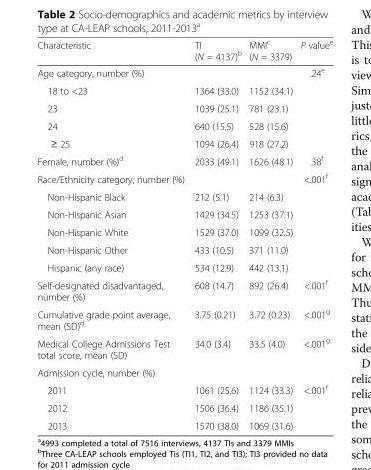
<table><thead><tr><td>Characteristic</td><td>TI (N = 4137)<sup>b</sup></td><td>MMI<sup>c</sup> (N = 3379)</td><td>P value<sup>e</sup></td></tr></thead><tbody><tr><td>Age category, number (%)</td><td></td><td></td><td>.24<sup>e</sup></td></tr><tr><td>18 to &lt;23</td><td>1364 (33.0)</td><td>1152 (34.1)</td><td></td></tr><tr><td>23</td><td>1039 (25.1)</td><td>781 (23.1)</td><td></td></tr><tr><td>24</td><td>640 (15.5)</td><td>528 (15.6)</td><td></td></tr><tr><td>≥ 25</td><td>1094 (26.4)</td><td>918 (27.2)</td><td></td></tr><tr><td>Female, number (%)<sup>d</sup></td><td>2033 (49.1)</td><td>1626 (48.1)</td><td>.38<sup>f</sup></td></tr><tr><td>Race/Ethnicity category, number (%)</td><td></td><td></td><td>&lt;.001<sup>f</sup></td></tr><tr><td>Non-Hispanic Black</td><td>212 (5.1)</td><td>214 (6.3)</td><td></td></tr><tr><td>Non-Hispanic Asian</td><td>1429 (34.5)</td><td>1253 (37.1)</td><td></td></tr><tr><td>Non-Hispanic White</td><td>1529 (37.0)</td><td>1099 (32.5)</td><td></td></tr><tr><td>Non-Hispanic Other</td><td>433 (10.5)</td><td>371 (11.0)</td><td></td></tr><tr><td>Hispanic (any race)</td><td>534 (12.9)</td><td>442 (13.1)</td><td></td></tr><tr><td>Self-designated disadvantaged, number (%)</td><td>608 (14.7)</td><td>892 (26.4)</td><td>&lt;.001<sup>f</sup></td></tr><tr><td>Cumulative grade point average, mean (SD)<sup>d</sup></td><td>3.75 (0.21)</td><td>3.72 (0.23)</td><td>&lt;.001<sup>g</sup></td></tr><tr><td>Medical College Admissions Test total score, mean (SD)</td><td>34.0 (3.4)</td><td>33.5 (4.0)</td><td>&lt;.001<sup>g</sup></td></tr><tr><td colspan="4">Admission cycle, number (%)</td></tr><tr><td>2011</td><td>1061 (25.6)</td><td>1124 (33.3)</td><td>&lt;.001<sup>f</sup></td></tr><tr><td>2012</td><td>1506 (36.4)</td><td>1186 (35.1)</td><td></td></tr><tr><td>2013</td><td>1570 (38.0)</td><td>1069 (31.6)</td><td></td></tr></tbody></table>